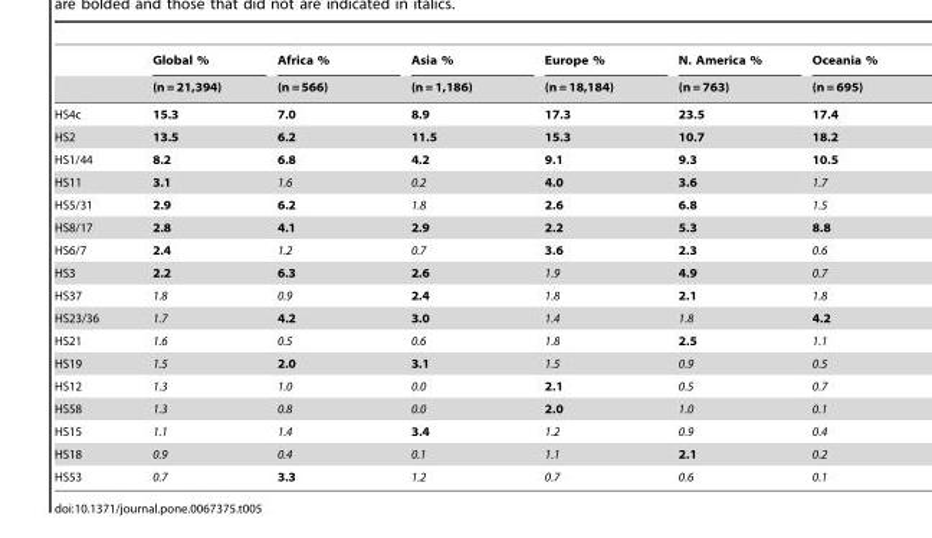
<table><thead><tr><td rowspan="2"></td><td rowspan="2">Global % (n = 21,394)</td><td rowspan="2">Africa % (n = 566)</td><td rowspan="2">Asia % (n = 1,186)</td><td rowspan="2">Europe % (n = 18,184)</td><td rowspan="2">N. America % (n = 763)</td><td rowspan="2">Oceania % (n = 695)</td></tr><tr></tr></thead><tbody><tr><td>HS4c</td><td>15.3</td><td>7.0</td><td>8.9</td><td>17.3</td><td>23.5</td><td>17.4</td></tr><tr><td>HS2</td><td>13.5</td><td>6.2</td><td>11.5</td><td>15.3</td><td>10.7</td><td>18.2</td></tr><tr><td>HS1/44</td><td>8.2</td><td>6.8</td><td>4.2</td><td>9.1</td><td>9.3</td><td>10.5</td></tr><tr><td>HS11</td><td>3.1</td><td>1.6</td><td>0.2</td><td>4.0</td><td>3.6</td><td>1.7</td></tr><tr><td>HS5/31</td><td>2.9</td><td>6.2</td><td>1.8</td><td>2.6</td><td>6.8</td><td>1.5</td></tr><tr><td>HS8/17</td><td>2.8</td><td>4.1</td><td>2.9</td><td>2.2</td><td>5.3</td><td>8.8</td></tr><tr><td>HS6/7</td><td>2.4</td><td>1.2</td><td>0.7</td><td>3.6</td><td>2.3</td><td>0.6</td></tr><tr><td>HS3</td><td>2.2</td><td>6.3</td><td>2.6</td><td>1.9</td><td>4.9</td><td>0.7</td></tr><tr><td>HS37</td><td>1.8</td><td>0.9</td><td>2.4</td><td>1.8</td><td>2.1</td><td>1.8</td></tr><tr><td>HS23/36</td><td>1.7</td><td>4.2</td><td>3.0</td><td>1.4</td><td>1.8</td><td>4.2</td></tr><tr><td>HS21</td><td>1.6</td><td>0.5</td><td>0.6</td><td>1.8</td><td>2.5</td><td>1.1</td></tr><tr><td>HS19</td><td>1.5</td><td>2.0</td><td>3.1</td><td>1.5</td><td>0.9</td><td>0.5</td></tr><tr><td>HS12</td><td>1.3</td><td>1.0</td><td>0.0</td><td>2.1</td><td>0.5</td><td>0.7</td></tr><tr><td>HS58</td><td>1.3</td><td>0.8</td><td>0.0</td><td>2.0</td><td>1.0</td><td>0.1</td></tr><tr><td>HS15</td><td>1.1</td><td>1.4</td><td>3.4</td><td>1.2</td><td>0.9</td><td>0.4</td></tr><tr><td>HS18</td><td>0.9</td><td>0.4</td><td>0.1</td><td>1.1</td><td>2.1</td><td>0.2</td></tr><tr><td>HS53</td><td>0.7</td><td>3.3</td><td>1.2</td><td>0.7</td><td>0.6</td><td>0.1</td></tr></tbody></table>